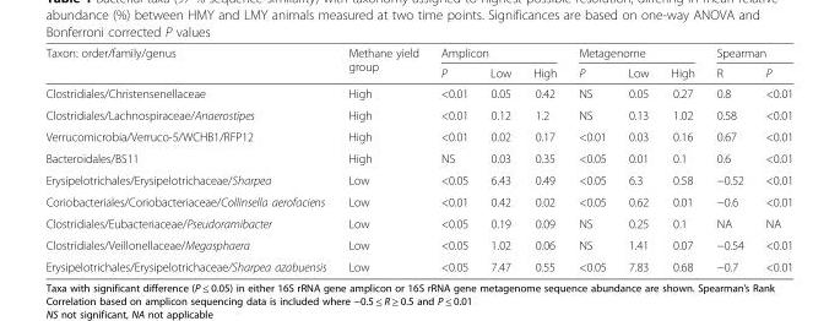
<table><thead><tr><td rowspan="2">Taxon: order/family/genus</td><td rowspan="2">Methane yield group</td><td colspan="3">Amplicon</td><td colspan="3">Metagenome</td><td colspan="2">Spearman</td></tr><tr><td>P</td><td>Low</td><td>High</td><td>P</td><td>Low</td><td>High</td><td>R</td><td>P</td></tr></thead><tbody><tr><td>Clostridiales/Christensenellaceae</td><td>High</td><td>&lt;0.01</td><td>0.05</td><td>0.42</td><td>NS</td><td>0.05</td><td>0.27</td><td>0.8</td><td>&lt;0.01</td></tr><tr><td>Clostridiales/Lachnospiraceae/Anaerostipes</td><td>High</td><td>&lt;0.01</td><td>0.12</td><td>1.2</td><td>NS</td><td>0.13</td><td>1.02</td><td>0.58</td><td>&lt;0.01</td></tr><tr><td>Verrucomicrobia/Verruco-5/WCHB1/RFP12</td><td>High</td><td>&lt;0.01</td><td>0.02</td><td>0.17</td><td>&lt;0.01</td><td>0.03</td><td>0.16</td><td>0.67</td><td>&lt;0.01</td></tr><tr><td>Bacteroidales/BS11</td><td>High</td><td>NS</td><td>0.03</td><td>0.35</td><td>&lt;0.05</td><td>0.01</td><td>0.1</td><td>0.6</td><td>&lt;0.01</td></tr><tr><td>Erysipelotrichales/Erysipelotrichaceae/Sharpea</td><td>Low</td><td>&lt;0.05</td><td>6.43</td><td>0.49</td><td>&lt;0.05</td><td>6.3</td><td>0.58</td><td>−0.52</td><td>&lt;0.01</td></tr><tr><td>Coriobacteriales/Coriobacteriaceae/Collinsella aerofaciens</td><td>Low</td><td>&lt;0.01</td><td>0.42</td><td>0.02</td><td>&lt;0.05</td><td>0.62</td><td>0.01</td><td>−0.6</td><td>&lt;0.01</td></tr><tr><td>Clostridiales/Eubacteriaceae/Pseudoramibacter</td><td>Low</td><td>&lt;0.05</td><td>0.19</td><td>0.09</td><td>NS</td><td>0.25</td><td>0.1</td><td>NA</td><td>NA</td></tr><tr><td>Clostridiales/Veillonellaceae/Megasphaera</td><td>Low</td><td>&lt;0.05</td><td>1.02</td><td>0.06</td><td>NS</td><td>1.41</td><td>0.07</td><td>−0.54</td><td>&lt;0.01</td></tr><tr><td>Erysipelotrichales/Erysipelotrichaceae/Sharpea azabuensis</td><td>Low</td><td>&lt;0.05</td><td>7.47</td><td>0.55</td><td>&lt;0.05</td><td>7.83</td><td>0.68</td><td>−0.7</td><td>&lt;0.01</td></tr></tbody></table>